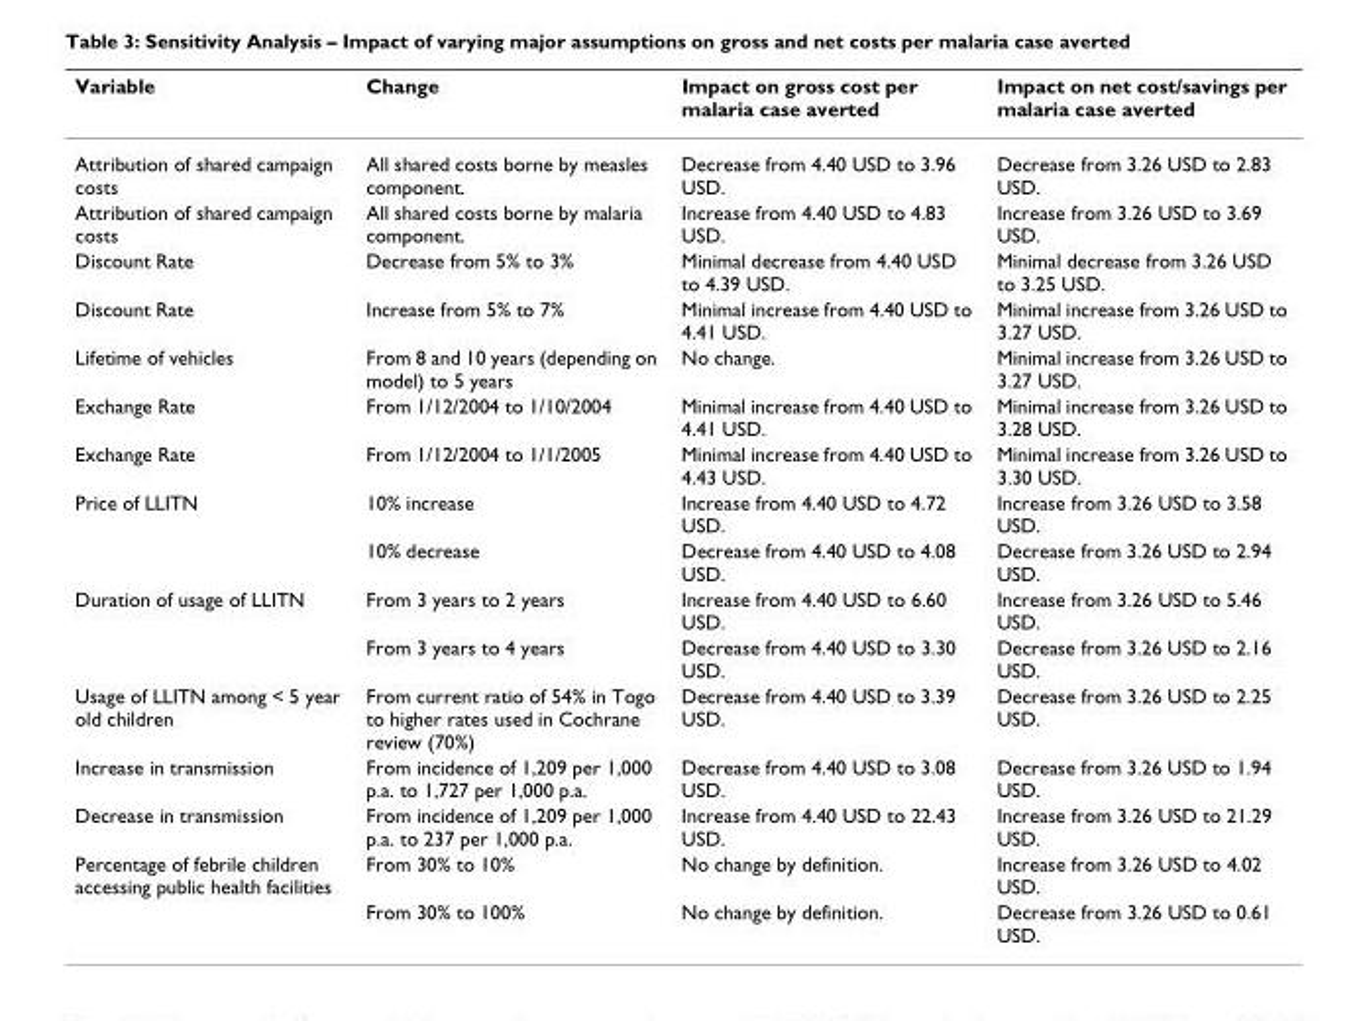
<table><thead><tr><td>Variable</td><td>Change</td><td>Impact on gross cost per malaria case averted</td><td>Impact on net cost/savings per malaria case averted</td></tr></thead><tbody><tr><td>Attribution of shared campaign costs</td><td>All shared costs borne by measles component.</td><td>Decrease from 4.40 USD to 3.96 USD.</td><td>Decrease from 3.26 USD to 2.83 USD.</td></tr><tr><td>Attribution of shared campaign costs</td><td>All shared costs borne by malaria component.</td><td>Increase from 4.40 USD to 4.83 USD.</td><td>Increase from 3.26 USD to 3.69 USD.</td></tr><tr><td>Discount Rate</td><td>Decrease from 5% to 3%</td><td>Minimal decrease from 4.40 USD to 4.39 USD.</td><td>Minimal decrease from 3.26 USD to 3.25 USD.</td></tr><tr><td>Discount Rate</td><td>Increase from 5% to 7%</td><td>Minimal increase from 4.40 USD to 4.41 USD.</td><td>Minimal increase from 3.26 USD to 3.27 USD.</td></tr><tr><td>Lifetime of vehicles</td><td>From 8 and 10 years (depending on model) to 5 years</td><td>No change.</td><td>Minimal increase from 3.26 USD to 3.27 USD.</td></tr><tr><td>Exchange Rate</td><td>From 1/12/2004 to 1/10/2004</td><td>Minimal increase from 4.40 USD to 4.41 USD.</td><td>Minimal increase from 3.26 USD to 3.28 USD.</td></tr><tr><td>Exchange Rate</td><td>From 1/12/2004 to 1/1/2005</td><td>Minimal increase from 4.40 USD to 4.43 USD.</td><td>Minimal increase from 3.26 USD to 3.30 USD.</td></tr><tr><td rowspan="2">Price of LLITN</td><td>10% increase</td><td>Increase from 4.40 USD to 4.72 USD.</td><td>Increase from 3.26 USD to 3.58 USD.</td></tr><tr><td>10% decrease</td><td>Decrease from 4.40 USD to 4.08 USD.</td><td>Decrease from 3.26 USD to 2.94 USD.</td></tr><tr><td rowspan="2">Duration of usage of LLITN</td><td>From 3 years to 2 years</td><td>Increase from 4.40 USD to 6.60 USD.</td><td>Increase from 3.26 USD to 5.46 USD.</td></tr><tr><td>From 3 years to 4 years</td><td>Decrease from 4.40 USD to 3.30 USD.</td><td>Decrease from 3.26 USD to 2.16 USD.</td></tr><tr><td>Usage of LLITN among &lt; 5 year old children</td><td>From current ratio of 54% in Togo to higher rates used in Cochrane review (70%)</td><td>Decrease from 4.40 USD to 3.39 USD.</td><td>Decrease from 3.26 USD to 2.25 USD.</td></tr><tr><td>Increase in transmission</td><td>From incidence of 1,209 per 1,000 p.a. to 1,727 per 1,000 p.a.</td><td>Decrease from 4.40 USD to 3.08 USD.</td><td>Decrease from 3.26 USD to 1.94 USD.</td></tr><tr><td>Decrease in transmission</td><td>From incidence of 1,209 per 1,000 p.a. to 237 per 1,000 p.a.</td><td>Increase from 4.40 USD to 22.43 USD.</td><td>Increase from 3.26 USD to 21.29 USD.</td></tr><tr><td rowspan="2">Percentage of febrile children accessing public health facilities</td><td>From 30% to 10%</td><td>No change by definition.</td><td>Increase from 3.26 USD to 4.02 USD.</td></tr><tr><td>From 30% to 100%</td><td>No change by definition.</td><td>Decrease from 3.26 USD to 0.61 USD.</td></tr></tbody></table>